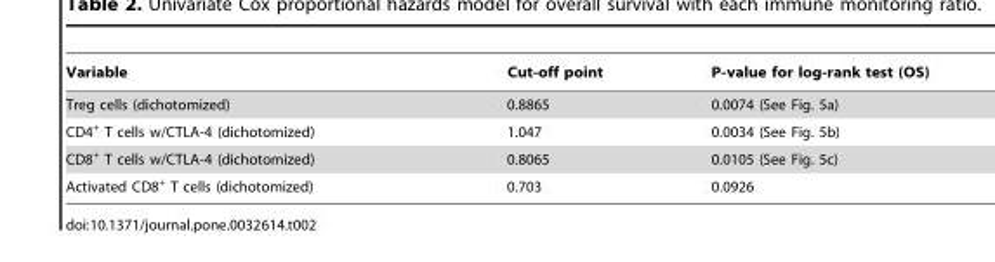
<table><thead><tr><td>Variable</td><td>Cut-off point</td><td>P-value for log-rank test (OS)</td></tr></thead><tbody><tr><td>Treg cells (dichotomized)</td><td>0.8865</td><td>0.0074 (See Fig. 5a)</td></tr><tr><td>CD4<sup>+</sup> T cells w/CTLA-4 (dichotomized)</td><td>1.047</td><td>0.0034 (See Fig. 5b)</td></tr><tr><td>CD8<sup>+</sup> T cells w/CTLA-4 (dichotomized)</td><td>0.8065</td><td>0.0105 (See Fig. 5c)</td></tr><tr><td>Activated CD8<sup>+</sup> T cells (dichotomized)</td><td>0.703</td><td>0.0926</td></tr></tbody></table>